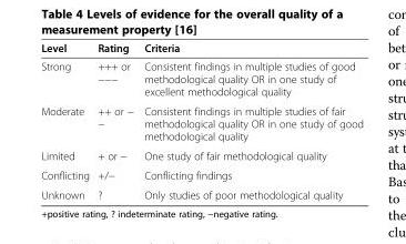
<table><thead><tr><td>Level</td><td>Rating</td><td>Criteria</td></tr></thead><tbody><tr><td>Strong</td><td>+++ or −−−</td><td>Consistent findings in multiple studies of good methodological quality OR in one study of excellent methodological quality</td></tr><tr><td>Moderate</td><td>++ or − −</td><td>Consistent findings in multiple studies of fair methodological quality OR in one study of good methodological quality</td></tr><tr><td>Limited</td><td>+ or −</td><td>One study of fair methodological quality</td></tr><tr><td>Conflicting</td><td>+/−</td><td>Conflicting findings</td></tr><tr><td>Unknown</td><td>?</td><td>Only studies of poor methodological quality</td></tr></tbody></table>